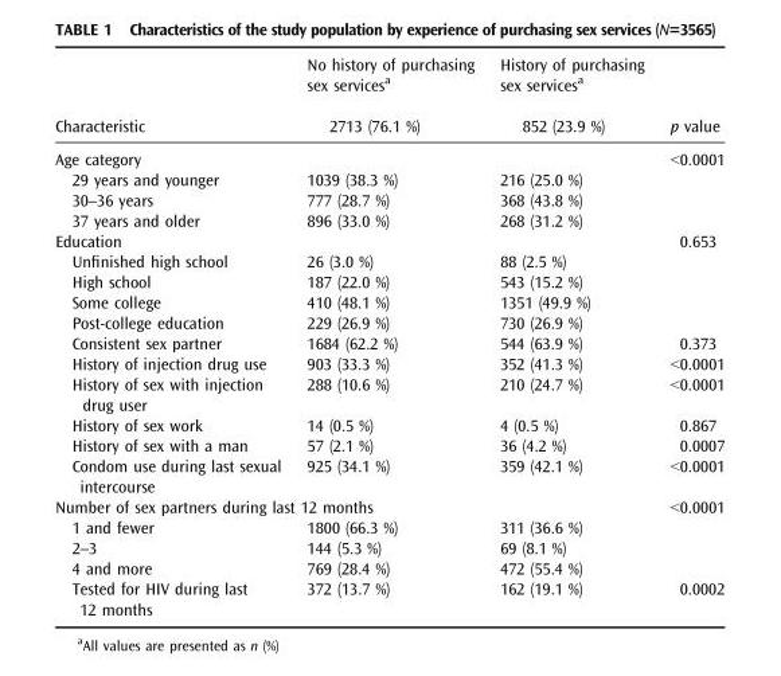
<table><thead><tr><td>Characteristic</td><td>No history of purchasing sex services<sup>a</sup> 2713 (76.1 %)</td><td>History of purchasing sex services<sup>a</sup> 852 (23.9 %)</td><td>p value</td></tr></thead><tbody><tr><td colspan="3">Age category</td><td>&lt;0.0001</td></tr><tr><td>29 years and younger</td><td>1039 (38.3 %)</td><td>216 (25.0 %)</td><td></td></tr><tr><td>30–36 years</td><td>777 (28.7 %)</td><td>368 (43.8 %)</td><td></td></tr><tr><td>37 years and older</td><td>896 (33.0 %)</td><td>268 (31.2 %)</td><td></td></tr><tr><td colspan="3">Education</td><td>0.653</td></tr><tr><td>Unfinished high school</td><td>26 (3.0 %)</td><td>88 (2.5 %)</td><td></td></tr><tr><td>High school</td><td>187 (22.0 %)</td><td>543 (15.2 %)</td><td></td></tr><tr><td>Some college</td><td>410 (48.1 %)</td><td>1351 (49.9 %)</td><td></td></tr><tr><td>Post-college education</td><td>229 (26.9 %)</td><td>730 (26.9 %)</td><td></td></tr><tr><td>Consistent sex partner</td><td>1684 (62.2 %)</td><td>544 (63.9 %)</td><td>0.373</td></tr><tr><td>History of injection drug use</td><td>903 (33.3 %)</td><td>352 (41.3 %)</td><td>&lt;0.0001</td></tr><tr><td>History of sex with injection drug user</td><td>288 (10.6 %)</td><td>210 (24.7 %)</td><td>&lt;0.0001</td></tr><tr><td>History of sex work</td><td>14 (0.5 %)</td><td>4 (0.5 %)</td><td>0.867</td></tr><tr><td>History of sex with a man</td><td>57 (2.1 %)</td><td>36 (4.2 %)</td><td>0.0007</td></tr><tr><td>Condom use during last sexual intercourse</td><td>925 (34.1 %)</td><td>359 (42.1 %)</td><td>&lt;0.0001</td></tr><tr><td colspan="3">Number of sex partners during last 12 months</td><td>&lt;0.0001</td></tr><tr><td>1 and fewer</td><td>1800 (66.3 %)</td><td>311 (36.6 %)</td><td></td></tr><tr><td>2–3</td><td>144 (5.3 %)</td><td>69 (8.1 %)</td><td></td></tr><tr><td>4 and more</td><td>769 (28.4 %)</td><td>472 (55.4 %)</td><td></td></tr><tr><td>Tested for HIV during last 12 months</td><td>372 (13.7 %)</td><td>162 (19.1 %)</td><td>0.0002</td></tr></tbody></table>